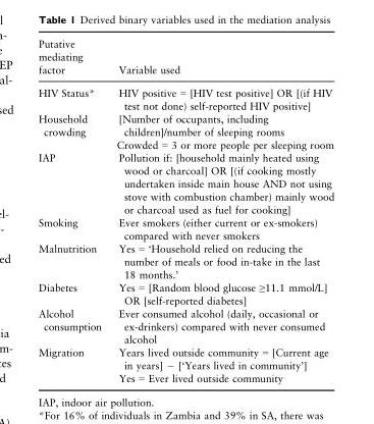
<table><thead><tr><td>Putative mediating factor</td><td>Variable used</td></tr></thead><tbody><tr><td>HIV Status*</td><td>HIV positive = [HIV test positive] OR [(if HIV test not done) self-reported HIV positive]</td></tr><tr><td>Household crowding</td><td>[Number of occupants, including children]/number of sleeping rooms Crowded = 3 or more people per sleeping room</td></tr><tr><td>IAP</td><td>Pollution if: [household mainly heated using wood or charcoal] OR [(if cooking mostly undertaken inside main house AND not using stove with combustion chamber) mainly wood or charcoal used as fuel for cooking]</td></tr><tr><td>Smoking</td><td>Ever smokers (either current or ex-smokers) compared with never smokers</td></tr><tr><td>Malnutrition</td><td>Yes = ‘Household relied on reducing the number of meals or food in-take in the last 18 months.’</td></tr><tr><td>Diabetes</td><td>Yes = [Random blood glucose ≥11.1 mmol/L] OR [self-reported diabetes]</td></tr><tr><td>Alcohol consumption</td><td>Ever consumed alcohol (daily, occasional or ex-drinkers) compared with never consumed alcohol</td></tr><tr><td>Migration</td><td>Years lived outside community = [Current age in years] − [‘Years lived in community’] Yes = Ever lived outside community</td></tr></tbody></table>